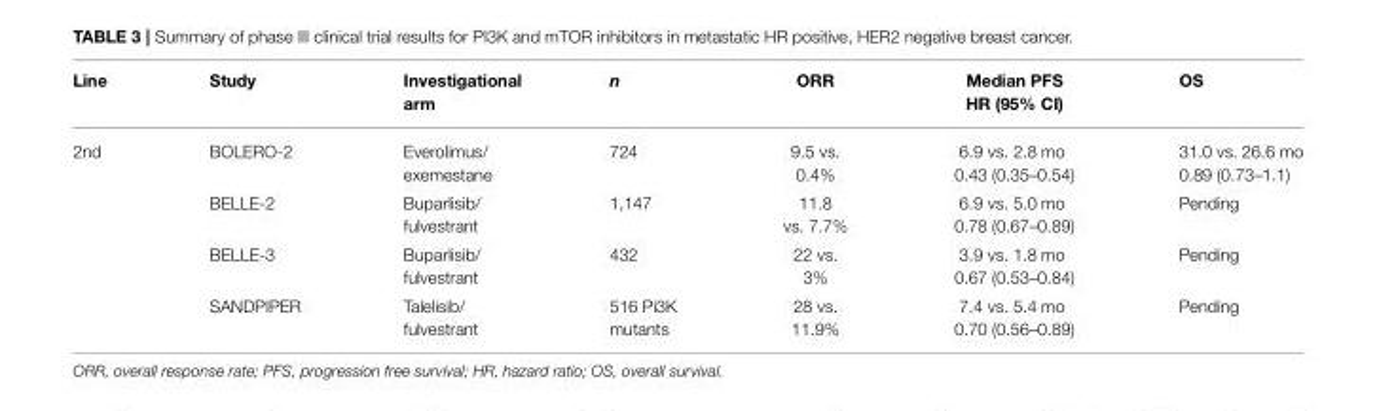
<table><thead><tr><td>Line</td><td>Study</td><td>Investigational arm</td><td>n</td><td>ORR</td><td>Median PFS HR (95% CI)</td><td>OS</td></tr></thead><tbody><tr><td rowspan="4">2nd</td><td>BOLERO-2</td><td>Everolimus/ exemestane</td><td>724</td><td>9.5 vs. 0.4%</td><td>6.9 vs. 2.8 mo 0.43 (0.35–0.54)</td><td>31.0 vs. 26.6 mo 0.89 (0.73–1.1)</td></tr><tr><td>BELLE-2</td><td>Buparlisib/ fulvestrant</td><td>1,147</td><td>11.8 vs. 7.7%</td><td>6.9 vs. 5.0 mo 0.78 (0.67–0.89)</td><td>Pending</td></tr><tr><td>BELLE-3</td><td>Buparlisib/ fulvestrant</td><td>432</td><td>22 vs. 3%</td><td>3.9 vs. 1.8 mo 0.67 (0.53–0.84)</td><td>Pending</td></tr><tr><td>SANDPIPER</td><td>Talelisib/ fulvestrant</td><td>516 Pi3K mutants</td><td>28 vs. 11.9%</td><td>7.4 vs. 5.4 mo 0.70 (0.56–0.89)</td><td>Pending</td></tr></tbody></table>